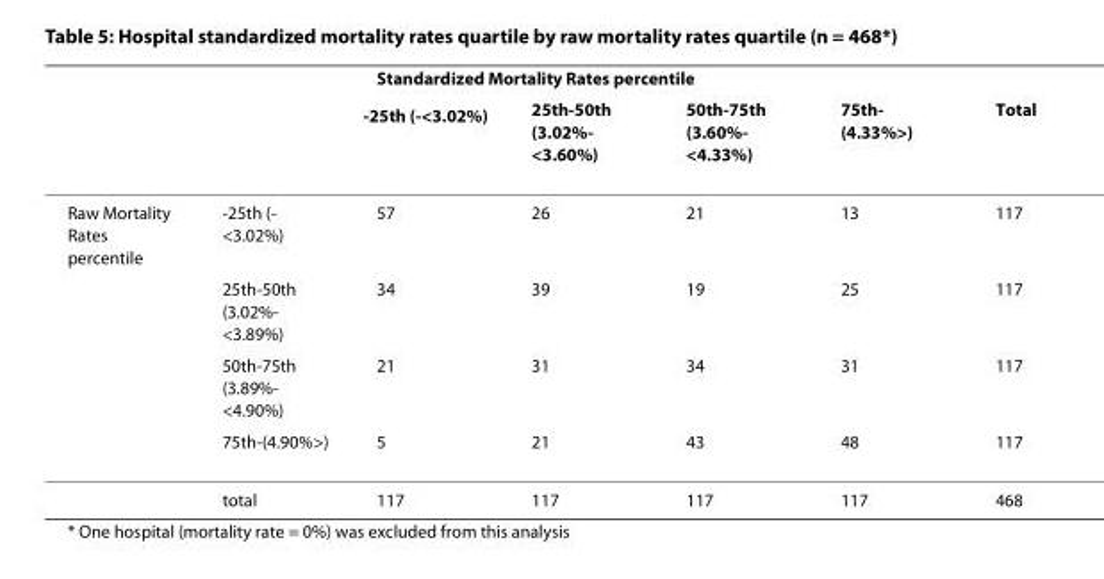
<table><thead><tr><td rowspan="2"></td><td rowspan="2"></td><td colspan="4">Standardized Mortality Rates percentile</td><td rowspan="2">Total</td></tr><tr><td>-25th (-&lt;3.02%)</td><td>25th-50th (3.02%- &lt;3.60%)</td><td>50th-75th (3.60%- &lt;4.33%)</td><td>75th- (4.33%&gt;)</td></tr></thead><tbody><tr><td rowspan="5">Raw Mortality Rates percentile</td><td>-25th (- &lt;3.02%)</td><td>57</td><td>26</td><td>21</td><td>13</td><td>117</td></tr><tr><td>25th-50th (3.02%- &lt;3.89%)</td><td>34</td><td>39</td><td>19</td><td>25</td><td>117</td></tr><tr><td>50th-75th (3.89%- &lt;4.90%)</td><td>21</td><td>31</td><td>34</td><td>31</td><td>117</td></tr><tr><td>75th-(4.90%&gt;)</td><td>5</td><td>21</td><td>43</td><td>48</td><td>117</td></tr><tr><td>total</td><td>117</td><td>117</td><td>117</td><td>117</td><td>468</td></tr></tbody></table>